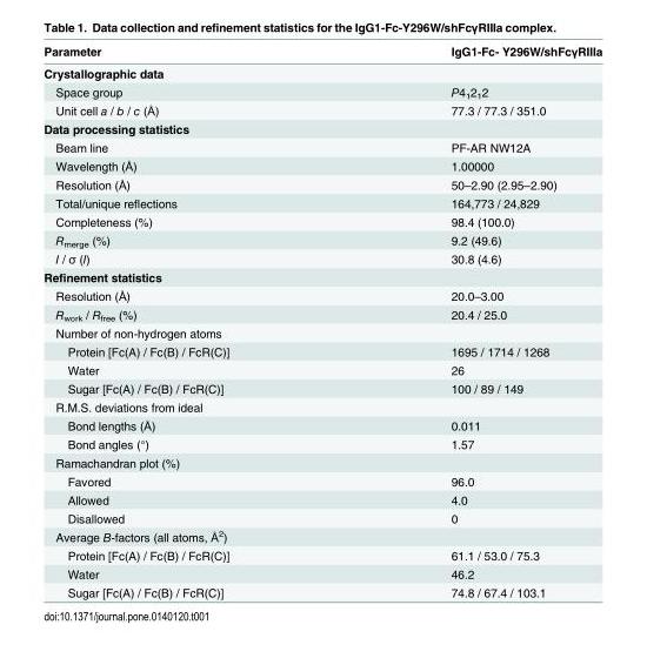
<table><thead><tr><td>Parameter</td><td>IgG1-Fc- Y296W/shFcγRIIIa</td></tr></thead><tbody><tr><td colspan="2">Crystallographic data</td></tr><tr><td>Space group</td><td>P4<sub>1</sub>2<sub>1</sub>2</td></tr><tr><td>Unit cell a / b / c (Å)</td><td>77.3 / 77.3 / 351.0</td></tr><tr><td colspan="2">Data processing statistics</td></tr><tr><td>Beam line</td><td>PF-AR NW12A</td></tr><tr><td>Wavelength (Å)</td><td>1.00000</td></tr><tr><td>Resolution (Å)</td><td>50–2.90 (2.95–2.90)</td></tr><tr><td>Total/unique reflections</td><td>164,773 / 24,829</td></tr><tr><td>Completeness (%)</td><td>98.4 (100.0)</td></tr><tr><td>R<sub>merge</sub> (%)</td><td>9.2 (49.6)</td></tr><tr><td>I / σ (I)</td><td>30.8 (4.6)</td></tr><tr><td colspan="2">Refinement statistics</td></tr><tr><td>Resolution (Å)</td><td>20.0–3.00</td></tr><tr><td>R<sub>work</sub> / R<sub>free</sub> (%)</td><td>20.4 / 25.0</td></tr><tr><td colspan="2">Number of non-hydrogen atoms</td></tr><tr><td>Protein [Fc(A) / Fc(B) / FcR(C)]</td><td>1695 / 1714 / 1268</td></tr><tr><td>Water</td><td>26</td></tr><tr><td>Sugar [Fc(A) / Fc(B) / FcR(C)]</td><td>100 / 89 / 149</td></tr><tr><td colspan="2">R.M.S. deviations from ideal</td></tr><tr><td>Bond lengths (Å)</td><td>0.011</td></tr><tr><td>Bond angles (°)</td><td>1.57</td></tr><tr><td colspan="2">Ramachandran plot (%)</td></tr><tr><td>Favored</td><td>96.0</td></tr><tr><td>Allowed</td><td>4.0</td></tr><tr><td>Disallowed</td><td>0</td></tr><tr><td colspan="2">Average B-factors (all atoms, Å<sup>2</sup>)</td></tr><tr><td>Protein [Fc(A) / Fc(B) / FcR(C)]</td><td>61.1 / 53.0 / 75.3</td></tr><tr><td>Water</td><td>46.2</td></tr><tr><td>Sugar [Fc(A) / Fc(B) / FcR(C)]</td><td>74.8 / 67.4 / 103.1</td></tr></tbody></table>